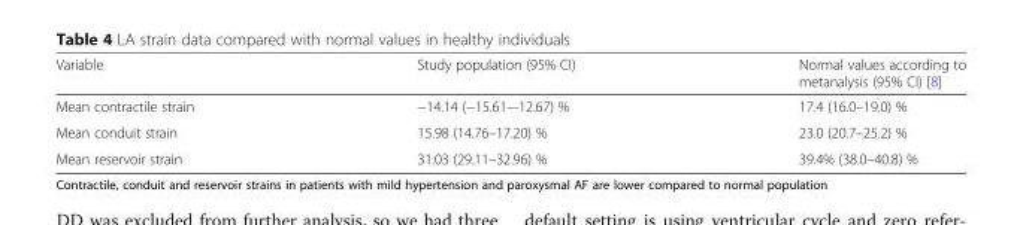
<table><thead><tr><td>Variable</td><td>Study population (95% CI)</td><td>Normal values according to metanalysis (95% CI) [8]</td></tr></thead><tbody><tr><td>Mean contractile strain</td><td>−14.14 (−15.61–-12.67) %</td><td>17.4 (16.0–19.0) %</td></tr><tr><td>Mean conduit strain</td><td>15.98 (14.76–17.20) %</td><td>23.0 (20.7–25.2) %</td></tr><tr><td>Mean reservoir strain</td><td>31.03 (29.11–32.96) %</td><td>39.4% (38.0–40.8) %</td></tr></tbody></table>